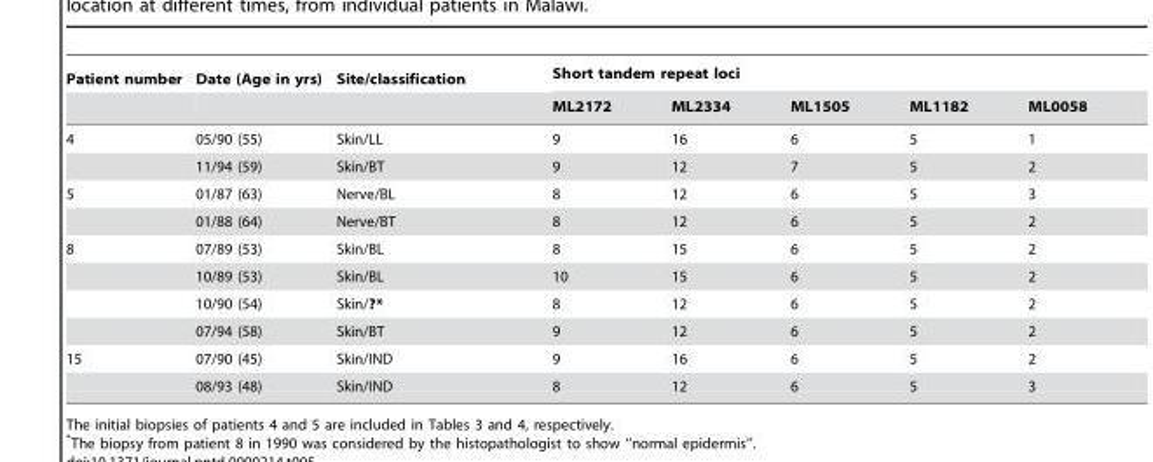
<table><thead><tr><td rowspan="2">Patient number</td><td rowspan="2">Date (Age in yrs)</td><td rowspan="2">Site/classification</td><td colspan="5">Short tandem repeat loci</td></tr><tr><td>ML2172</td><td>ML2334</td><td>ML1505</td><td>ML1182</td><td>ML0058</td></tr></thead><tbody><tr><td rowspan="2">4</td><td>05/90 (55)</td><td>Skin/LL</td><td>9</td><td>16</td><td>6</td><td>5</td><td>1</td></tr><tr><td>11/94 (59)</td><td>Skin/BT</td><td>9</td><td>12</td><td>7</td><td>5</td><td>2</td></tr><tr><td rowspan="2">5</td><td>01/87 (63)</td><td>Nerve/BL</td><td>8</td><td>12</td><td>6</td><td>5</td><td>3</td></tr><tr><td>01/88 (64)</td><td>Nerve/BT</td><td>8</td><td>12</td><td>6</td><td>5</td><td>2</td></tr><tr><td rowspan="4">8</td><td>07/89 (53)</td><td>Skin/BL</td><td>8</td><td>15</td><td>6</td><td>5</td><td>2</td></tr><tr><td>10/89 (53)</td><td>Skin/BL</td><td>10</td><td>15</td><td>6</td><td>5</td><td>2</td></tr><tr><td>10/90 (54)</td><td>Skin/?*</td><td>8</td><td>12</td><td>6</td><td>5</td><td>2</td></tr><tr><td>07/94 (58)</td><td>Skin/BT</td><td>9</td><td>12</td><td>6</td><td>5</td><td>2</td></tr><tr><td rowspan="2">15</td><td>07/90 (45)</td><td>Skin/IND</td><td>9</td><td>16</td><td>6</td><td>5</td><td>2</td></tr><tr><td>08/93 (48)</td><td>Skin/IND</td><td>8</td><td>12</td><td>6</td><td>5</td><td>3</td></tr></tbody></table>